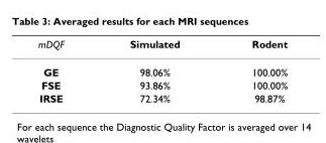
<table><thead><tr><td>mDQF</td><td>Simulated</td><td>Rodent</td></tr></thead><tbody><tr><td>GE</td><td>98.06%</td><td>100.00%</td></tr><tr><td>FSE</td><td>93.86%</td><td>100.00%</td></tr><tr><td>IRSE</td><td>72.34%</td><td>98.87%</td></tr></tbody></table>